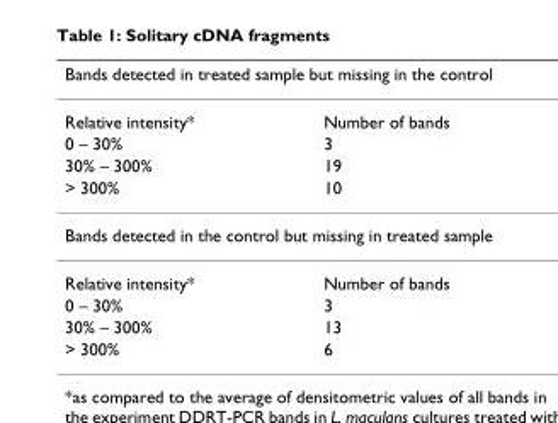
<table><thead><tr><td colspan="2">Bands detected in treated sample but missing in the control</td></tr><tr><td>Relative intensity*</td><td>Number of bands</td></tr></thead><tbody><tr><td>0 – 30%</td><td>3</td></tr><tr><td>30% – 300%</td><td>19</td></tr><tr><td>&gt; 300%</td><td>10</td></tr><tr><td colspan="2">Bands detected in the control but missing in treated sample</td></tr><tr><td>Relative intensity*</td><td>Number of bands</td></tr><tr><td>0 – 30%</td><td>3</td></tr><tr><td>30% – 300%</td><td>13</td></tr><tr><td>&gt; 300%</td><td>6</td></tr></tbody></table>